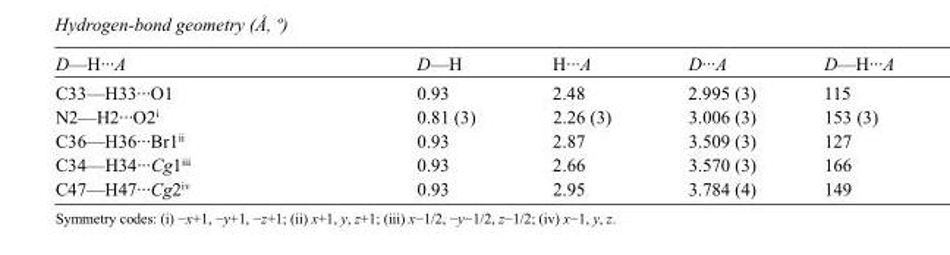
<table><tbody><tr><td>D—H···A</td><td>D—H</td><td>H···A</td><td>D···A</td><td>D—H···A</td></tr><tr><td>C33—H33···O1</td><td>0.93</td><td>2.48</td><td>2.995 (3)</td><td>115</td></tr><tr><td>N2—H2···O2<sup>i</sup></td><td>0.81 (3)</td><td>2.26 (3)</td><td>3.006 (3)</td><td>153 (3)</td></tr><tr><td>C36—H36···Br1<sup>ii</sup></td><td>0.93</td><td>2.87</td><td>3.509 (3)</td><td>127</td></tr><tr><td>C34—H34···Cg1<sup>iii</sup></td><td>0.93</td><td>2.66</td><td>3.570 (3)</td><td>166</td></tr><tr><td>C47—H47···Cg2<sup>iv</sup></td><td>0.93</td><td>2.95</td><td>3.784 (4)</td><td>149</td></tr></tbody></table>